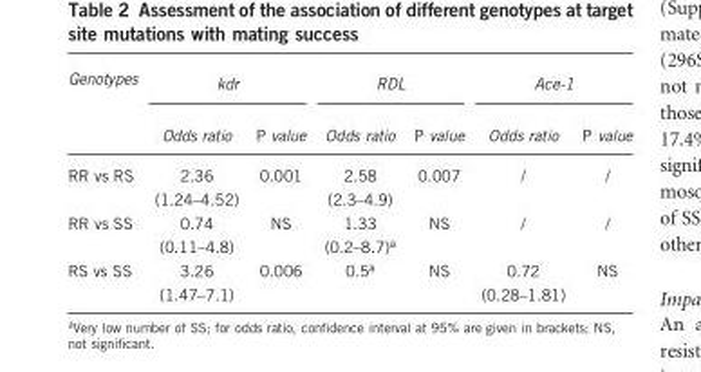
<table><thead><tr><td rowspan="2">Genotypes</td><td colspan="2">kdr</td><td colspan="2">RDL</td><td colspan="2">Ace-1</td></tr><tr><td>Odds ratio</td><td>P value</td><td>Odds ratio</td><td>P value</td><td>Odds ratio</td><td>P value</td></tr></thead><tbody><tr><td>RR vs RS</td><td>2.36 (1.24–4.52)</td><td>0.001</td><td>2.58 (2.3–4.9)</td><td>0.007</td><td>/</td><td>/</td></tr><tr><td>RR vs SS</td><td>0.74 (0.11–4.8)</td><td>NS</td><td>1.33 (0.2–8.7)<sup>a</sup></td><td>NS</td><td>/</td><td>/</td></tr><tr><td>RS vs SS</td><td>3.26 (1.47–7.1)</td><td>0.006</td><td>0.5<sup>a</sup></td><td>NS</td><td>0.72 (0.28–1.81)</td><td>NS</td></tr></tbody></table>